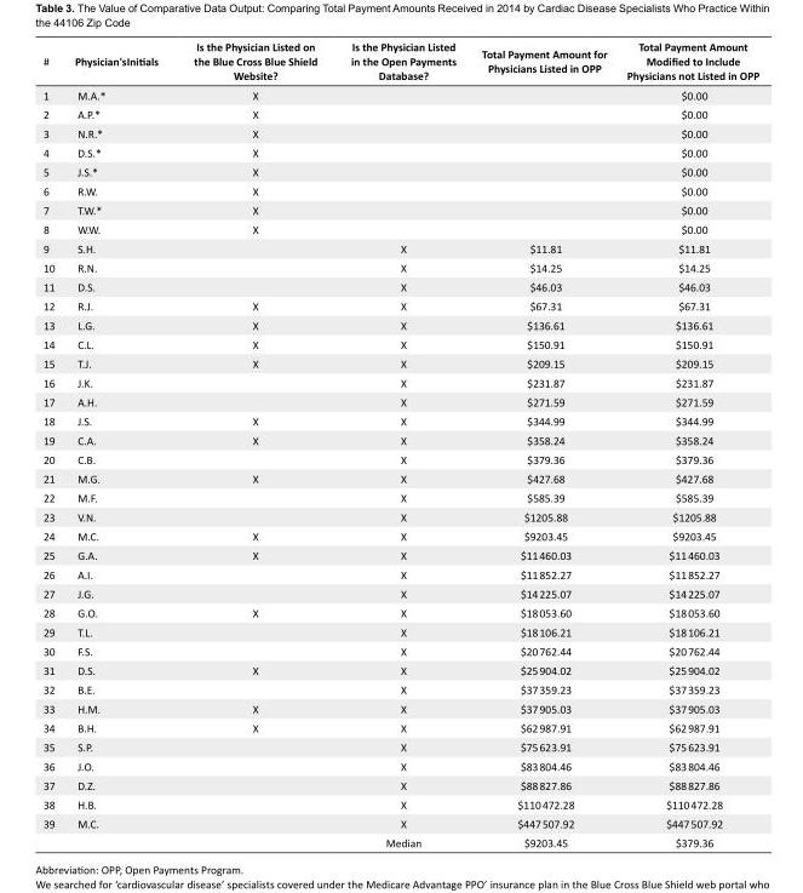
<table><tbody><tr><td>#</td><td>Physician&#x27;sInitials</td><td>Is the Physician Listed on the Blue Cross Blue Shield Website?</td><td>Is the Physician Listed in the Open Payments Database?</td><td>Total Payment Amount for Physicians Listed in OPP</td><td>Total Payment Amount Modified to Include Physicians not Listed in OPP</td></tr><tr><td>1</td><td>M.A.*</td><td>X</td><td></td><td></td><td>$0.00</td></tr><tr><td>2</td><td>A.P.*</td><td>X</td><td></td><td></td><td>$0.00</td></tr><tr><td>3</td><td>N.R.*</td><td>X</td><td></td><td></td><td>$0.00</td></tr><tr><td>4</td><td>D.S.*</td><td>X</td><td></td><td></td><td>$0.00</td></tr><tr><td>5</td><td>J.S.*</td><td>X</td><td></td><td></td><td>$0.00</td></tr><tr><td>6</td><td>R.W.</td><td>X</td><td></td><td></td><td>$0.00</td></tr><tr><td>7</td><td>T.W.*</td><td>X</td><td></td><td></td><td>$0.00</td></tr><tr><td>8</td><td>W.W.</td><td>X</td><td></td><td></td><td>$0.00</td></tr><tr><td>9</td><td>S.H.</td><td></td><td>X</td><td>$11.81</td><td>$11.81</td></tr><tr><td>10</td><td>R.N.</td><td></td><td>X</td><td>$14.25</td><td>$14.25</td></tr><tr><td>11</td><td>D.S.</td><td></td><td>X</td><td>$46.03</td><td>$46.03</td></tr><tr><td>12</td><td>R.J.</td><td>X</td><td>X</td><td>$67.31</td><td>$67.31</td></tr><tr><td>13</td><td>L.G.</td><td>X</td><td>X</td><td>$136.61</td><td>$136.61</td></tr><tr><td>14</td><td>C.L.</td><td>X</td><td>X</td><td>$150.91</td><td>$150.91</td></tr><tr><td>15</td><td>T.J.</td><td>X</td><td>X</td><td>$209.15</td><td>$209.15</td></tr><tr><td>16</td><td>J.K.</td><td></td><td>X</td><td>$231.87</td><td>$231.87</td></tr><tr><td>17</td><td>A.H.</td><td></td><td>X</td><td>$271.59</td><td>$271.59</td></tr><tr><td>18</td><td>J.S.</td><td>X</td><td>X</td><td>$344.99</td><td>$344.99</td></tr><tr><td>19</td><td>C.A.</td><td>X</td><td>X</td><td>$358.24</td><td>$358.24</td></tr><tr><td>20</td><td>C.B.</td><td></td><td>X</td><td>$379.36</td><td>$379.36</td></tr><tr><td>21</td><td>M.G.</td><td>X</td><td>X</td><td>$427.68</td><td>$427.68</td></tr><tr><td>22</td><td>M.F.</td><td></td><td>X</td><td>$585.39</td><td>$585.39</td></tr><tr><td>23</td><td>V.N.</td><td></td><td>X</td><td>$1205.88</td><td>$1205.88</td></tr><tr><td>24</td><td>M.C.</td><td>X</td><td>X</td><td>$9203.45</td><td>$9203.45</td></tr><tr><td>25</td><td>G.A.</td><td>X</td><td>X</td><td>$11 460.03</td><td>$11 460.03</td></tr><tr><td>26</td><td>A.I.</td><td></td><td>X</td><td>$11 852.27</td><td>$11 852.27</td></tr><tr><td>27</td><td>J.G.</td><td></td><td>X</td><td>$14 225.07</td><td>$14 225.07</td></tr><tr><td>28</td><td>G.O.</td><td>X</td><td>X</td><td>$18 053.60</td><td>$18 053.60</td></tr><tr><td>29</td><td>T.L.</td><td></td><td>X</td><td>$18 106.21</td><td>$18 106.21</td></tr><tr><td>30</td><td>F.S.</td><td></td><td>X</td><td>$20 762.44</td><td>$20 762.44</td></tr><tr><td>31</td><td>D.S.</td><td>X</td><td>X</td><td>$25 904.02</td><td>$25 904.02</td></tr><tr><td>32</td><td>B.E.</td><td></td><td>X</td><td>$37 359.23</td><td>$37 359.23</td></tr><tr><td>33</td><td>H.M.</td><td>X</td><td>X</td><td>$37 905.03</td><td>$37 905.03</td></tr><tr><td>34</td><td>B.H.</td><td>X</td><td>X</td><td>$62 987.91</td><td>$62 987.91</td></tr><tr><td>35</td><td>S.P.</td><td></td><td>X</td><td>$75 623.91</td><td>$75 623.91</td></tr><tr><td>36</td><td>J.O.</td><td></td><td>X</td><td>$83 804.46</td><td>$83 804.46</td></tr><tr><td>37</td><td>D.Z.</td><td></td><td>X</td><td>$88 827.86</td><td>$88 827.86</td></tr><tr><td>38</td><td>H.B.</td><td></td><td>X</td><td>$110 472.28</td><td>$110 472.28</td></tr><tr><td rowspan="2">39</td><td>M.C.</td><td></td><td>X</td><td>$447 507.92</td><td>$447 507.92</td></tr><tr><td></td><td></td><td>Median</td><td>$9203.45</td><td>$379.36</td></tr></tbody></table>